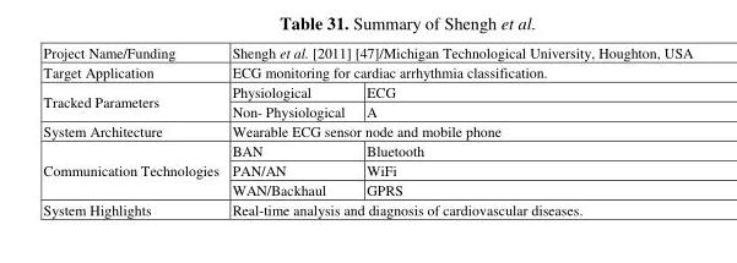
<table><tbody><tr><td>Project Name/Funding</td><td colspan="2">Shengh et al. [2011] [47]/Michigan Technological University, Houghton, USA</td></tr><tr><td>Target Application</td><td colspan="2">ECG monitoring for cardiac arrhythmia classification.</td></tr><tr><td rowspan="2">Tracked Parameters</td><td>Physiological</td><td>ECG</td></tr><tr><td>Non- Physiological</td><td>A</td></tr><tr><td>System Architecture</td><td colspan="2">Wearable ECG sensor node and mobile phone</td></tr><tr><td rowspan="3">Communication Technologies</td><td>BAN</td><td>Bluetooth</td></tr><tr><td>PAN/AN</td><td>WiFi</td></tr><tr><td>WAN/Backhaul</td><td>GPRS</td></tr><tr><td>System Highlights</td><td colspan="2">Real-time analysis and diagnosis of cardiovascular diseases.</td></tr></tbody></table>